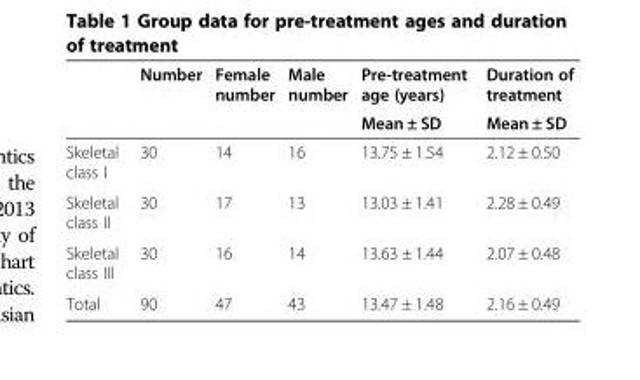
<table><thead><tr><td rowspan="2"></td><td rowspan="2">Number</td><td rowspan="2">Female number</td><td rowspan="2">Male number</td><td rowspan="2">Pre-treatment age (years) Mean ± SD</td><td rowspan="2">Duration of treatment Mean ± SD</td></tr><tr></tr></thead><tbody><tr><td>Skeletal class I</td><td>30</td><td>14</td><td>16</td><td>13.75 ± 1.54</td><td>2.12 ± 0.50</td></tr><tr><td>Skeletal class II</td><td>30</td><td>17</td><td>13</td><td>13.03 ± 1.41</td><td>2.28 ± 0.49</td></tr><tr><td>Skeletal class III</td><td>30</td><td>16</td><td>14</td><td>13.63 ± 1.44</td><td>2.07 ± 0.48</td></tr><tr><td>Total</td><td>90</td><td>47</td><td>43</td><td>13.47 ± 1.48</td><td>2.16 ± 0.49</td></tr></tbody></table>